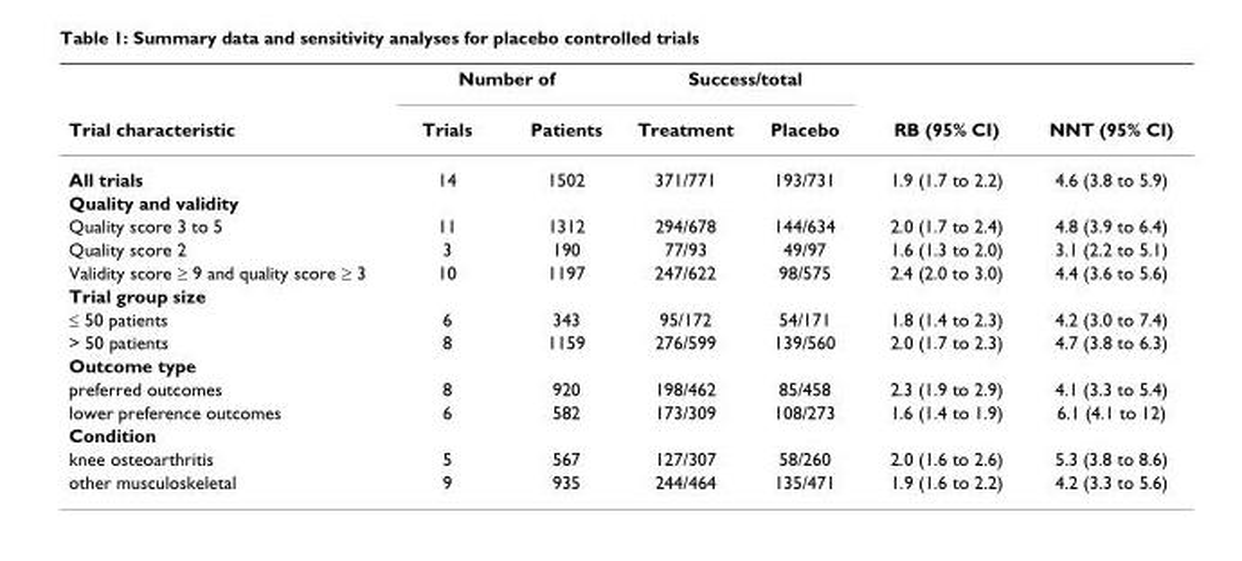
<table><thead><tr><td rowspan="2">Trial characteristic</td><td colspan="2">Number of</td><td colspan="2">Success/total</td><td rowspan="2">RB (95% CI)</td><td rowspan="2">NNT (95% CI)</td></tr><tr><td>Trials</td><td>Patients</td><td>Treatment</td><td>Placebo</td></tr></thead><tbody><tr><td>All trials</td><td>14</td><td>1502</td><td>371/771</td><td>193/731</td><td>1.9 (1.7 to 2.2)</td><td>4.6 (3.8 to 5.9)</td></tr><tr><td colspan="7">Quality and validity</td></tr><tr><td>Quality score 3 to 5</td><td>11</td><td>1312</td><td>294/678</td><td>144/634</td><td>2.0 (1.7 to 2.4)</td><td>4.8 (3.9 to 6.4)</td></tr><tr><td>Quality score 2</td><td>3</td><td>190</td><td>77/93</td><td>49/97</td><td>1.6 (1.3 to 2.0)</td><td>3.1 (2.2 to 5.1)</td></tr><tr><td>Validity score ≥ 9 and quality score ≥ 3</td><td>10</td><td>1197</td><td>247/622</td><td>98/575</td><td>2.4 (2.0 to 3.0)</td><td>4.4 (3.6 to 5.6)</td></tr><tr><td colspan="7">Trial group size</td></tr><tr><td>≤ 50 patients</td><td>6</td><td>343</td><td>95/172</td><td>54/171</td><td>1.8 (1.4 to 2.3)</td><td>4.2 (3.0 to 7.4)</td></tr><tr><td>&gt; 50 patients</td><td>8</td><td>1159</td><td>276/599</td><td>139/560</td><td>2.0 (1.7 to 2.3)</td><td>4.7 (3.8 to 6.3)</td></tr><tr><td colspan="7">Outcome type</td></tr><tr><td>preferred outcomes</td><td>8</td><td>920</td><td>198/462</td><td>85/458</td><td>2.3 (1.9 to 2.9)</td><td>4.1 (3.3 to 5.4)</td></tr><tr><td>lower preference outcomes</td><td>6</td><td>582</td><td>173/309</td><td>108/273</td><td>1.6 (1.4 to 1.9)</td><td>6.1 (4.1 to 12)</td></tr><tr><td colspan="7">Condition</td></tr><tr><td>knee osteoarthritis</td><td>5</td><td>567</td><td>127/307</td><td>58/260</td><td>2.0 (1.6 to 2.6)</td><td>5.3 (3.8 to 8.6)</td></tr><tr><td>other musculoskeletal</td><td>9</td><td>935</td><td>244/464</td><td>135/471</td><td>1.9 (1.6 to 2.2)</td><td>4.2 (3.3 to 5.6)</td></tr></tbody></table>